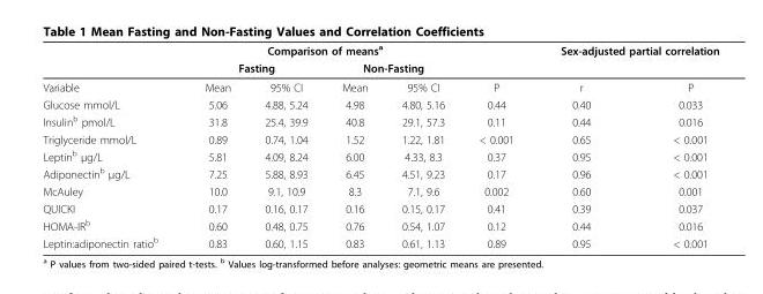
<table><thead><tr><td rowspan="3">Variable</td><td colspan="4">Comparison of means<sup>a</sup></td><td rowspan="3">P</td><td colspan="2">Sex-adjusted partial correlation</td></tr><tr><td colspan="2">Fasting</td><td colspan="2">Non-Fasting</td><td rowspan="2">r</td><td rowspan="2">P</td></tr><tr><td>Mean</td><td>95% CI</td><td>Mean</td><td>95% CI</td></tr></thead><tbody><tr><td>Glucose mmol/L</td><td>5.06</td><td>4.88, 5.24</td><td>4.98</td><td>4.80, 5.16</td><td>0.44</td><td>0.40</td><td>0.033</td></tr><tr><td>Insulin<sup>b</sup> pmol/L</td><td>31.8</td><td>25.4, 39.9</td><td>40.8</td><td>29.1, 57.3</td><td>0.11</td><td>0.44</td><td>0.016</td></tr><tr><td>Triglyceride mmol/L</td><td>0.89</td><td>0.74, 1.04</td><td>1.52</td><td>1.22, 1.81</td><td>&lt; 0.001</td><td>0.65</td><td>&lt; 0.001</td></tr><tr><td>Leptin<sup>b</sup> μg/L</td><td>5.81</td><td>4.09, 8.24</td><td>6.00</td><td>4.33, 8.3</td><td>0.37</td><td>0.95</td><td>&lt; 0.001</td></tr><tr><td>Adiponectin<sup>b</sup> μg/L</td><td>7.25</td><td>5.88, 8.93</td><td>6.45</td><td>4.51, 9.23</td><td>0.17</td><td>0.96</td><td>&lt; 0.001</td></tr><tr><td>McAuley</td><td>10.0</td><td>9.1, 10.9</td><td>8.3</td><td>7.1, 9.6</td><td>0.002</td><td>0.60</td><td>0.001</td></tr><tr><td>QUICKI</td><td>0.17</td><td>0.16, 0.17</td><td>0.16</td><td>0.15, 0.17</td><td>0.41</td><td>0.39</td><td>0.037</td></tr><tr><td>HOMA-IR<sup>b</sup></td><td>0.60</td><td>0.48, 0.75</td><td>0.76</td><td>0.54, 1.07</td><td>0.12</td><td>0.44</td><td>0.016</td></tr><tr><td>Leptin:adiponectin ratio<sup>b</sup></td><td>0.83</td><td>0.60, 1.15</td><td>0.83</td><td>0.61, 1.13</td><td>0.89</td><td>0.95</td><td>&lt; 0.001</td></tr></tbody></table>